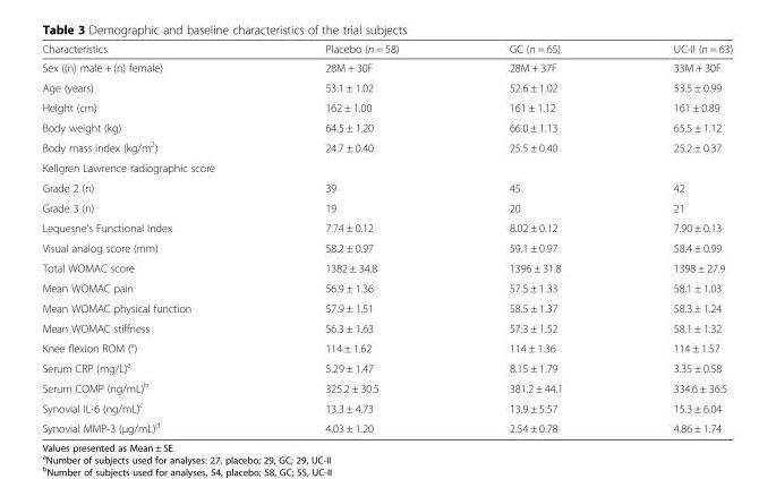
<table><thead><tr><td>Characteristics</td><td>Placebo (n = 58)</td><td>GC (n = 65)</td><td>UC-II (n = 63)</td></tr></thead><tbody><tr><td>Sex ((n) male + (n) female)</td><td>28M + 30F</td><td>28M + 37F</td><td>33M + 30F</td></tr><tr><td>Age (years)</td><td>53.1 ± 1.02</td><td>52.6 ± 1.02</td><td>53.5 ± 0.99</td></tr><tr><td>Height (cm)</td><td>162 ± 1.00</td><td>161 ± 1.12</td><td>161 ± 0.89</td></tr><tr><td>Body weight (kg)</td><td>64.5 ± 1.20</td><td>66.0 ± 1.13</td><td>65.5 ± 1.12</td></tr><tr><td>Body mass index (kg/m<sup>2</sup>)</td><td>24.7 ± 0.40</td><td>25.5 ± 0.40</td><td>25.2 ± 0.37</td></tr><tr><td colspan="4">Kellgren Lawrence radiographic score</td></tr><tr><td>Grade 2 (n)</td><td>39</td><td>45</td><td>42</td></tr><tr><td>Grade 3 (n)</td><td>19</td><td>20</td><td>21</td></tr><tr><td>Lequesne&#x27;s Functional Index</td><td>7.74 ± 0.12</td><td>8.02 ± 0.12</td><td>7.90 ± 0.13</td></tr><tr><td>Visual analog score (mm)</td><td>58.2 ± 0.97</td><td>59.1 ± 0.97</td><td>58.4 ± 0.99</td></tr><tr><td>Total WOMAC score</td><td>1382 ± 34.8</td><td>1396 ± 31.8</td><td>1398 ± 27.9</td></tr><tr><td>Mean WOMAC pain</td><td>56.9 ± 1.36</td><td>57.5 ± 1.33</td><td>58.1 ± 1.03</td></tr><tr><td>Mean WOMAC physical function</td><td>57.9 ± 1.51</td><td>58.5 ± 1.37</td><td>58.3 ± 1.24</td></tr><tr><td>Mean WOMAC stiffness</td><td>56.3 ± 1.63</td><td>57.3 ± 1.52</td><td>58.1 ± 1.32</td></tr><tr><td>Knee flexion ROM (°)</td><td>114 ± 1.62</td><td>114 ± 1.36</td><td>114 ± 1.57</td></tr><tr><td>Serum CRP (mg/L)<sup>a</sup></td><td>5.29 ± 1.47</td><td>8.15 ± 1.79</td><td>3.35 ± 0.58</td></tr><tr><td>Serum COMP (ng/mL)<sup>b</sup></td><td>325.2 ± 30.5</td><td>381.2 ± 44.1</td><td>334.6 ± 36.5</td></tr><tr><td>Synovial IL-6 (ng/mL)<sup>c</sup></td><td>13.3 ± 4.73</td><td>13.9 ± 5.57</td><td>15.3 ± 6.04</td></tr><tr><td>Synovial MMP-3 (μg/mL)<sup>d</sup></td><td>4.03 ± 1.20</td><td>2.54 ± 0.78</td><td>4.86 ± 1.74</td></tr></tbody></table>